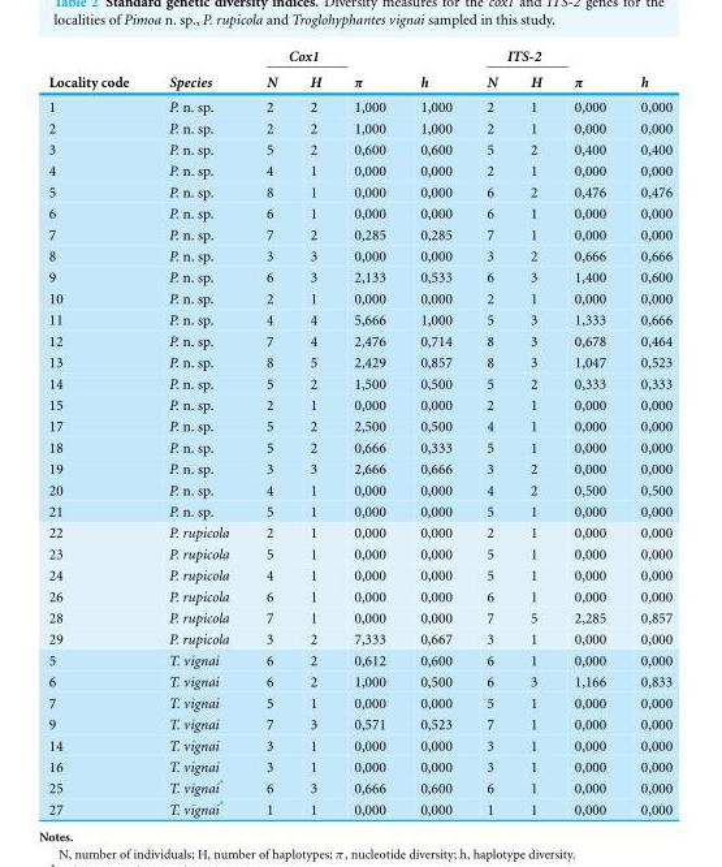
<table><thead><tr><td rowspan="2">Locality code</td><td rowspan="2">Species</td><td colspan="2">Cox1</td><td rowspan="2">π</td><td rowspan="2">h</td><td colspan="2">ITS-2</td><td rowspan="2">π</td><td rowspan="2">h</td></tr><tr><td>N</td><td>H</td><td>N</td><td>H</td></tr></thead><tbody><tr><td>1</td><td>P. n. sp.</td><td>2</td><td>2</td><td>1,000</td><td>1,000</td><td>2</td><td>1</td><td>0,000</td><td>0,000</td></tr><tr><td>2</td><td>P. n. sp.</td><td>2</td><td>2</td><td>1,000</td><td>1,000</td><td>2</td><td>1</td><td>0,000</td><td>0,000</td></tr><tr><td>3</td><td>P. n. sp.</td><td>5</td><td>2</td><td>0,600</td><td>0,600</td><td>5</td><td>2</td><td>0,400</td><td>0,400</td></tr><tr><td>4</td><td>P. n. sp.</td><td>4</td><td>1</td><td>0,000</td><td>0,000</td><td>2</td><td>1</td><td>0,000</td><td>0,000</td></tr><tr><td>5</td><td>P. n. sp.</td><td>8</td><td>1</td><td>0,000</td><td>0,000</td><td>6</td><td>2</td><td>0,476</td><td>0,476</td></tr><tr><td>6</td><td>P. n. sp.</td><td>6</td><td>1</td><td>0,000</td><td>0,000</td><td>6</td><td>1</td><td>0,000</td><td>0,000</td></tr><tr><td>7</td><td>P. n. sp.</td><td>7</td><td>2</td><td>0,285</td><td>0,285</td><td>7</td><td>1</td><td>0,000</td><td>0,000</td></tr><tr><td>8</td><td>P. n. sp.</td><td>3</td><td>3</td><td>0,000</td><td>0,000</td><td>3</td><td>2</td><td>0,666</td><td>0,666</td></tr><tr><td>9</td><td>P. n. sp.</td><td>6</td><td>3</td><td>2,133</td><td>0,533</td><td>6</td><td>3</td><td>1,400</td><td>0,600</td></tr><tr><td>10</td><td>P. n. sp.</td><td>2</td><td>1</td><td>0,000</td><td>0,000</td><td>2</td><td>1</td><td>0,000</td><td>0,000</td></tr><tr><td>11</td><td>P. n. sp.</td><td>4</td><td>4</td><td>5,666</td><td>1,000</td><td>5</td><td>3</td><td>1,333</td><td>0,666</td></tr><tr><td>12</td><td>P. n. sp.</td><td>7</td><td>4</td><td>2,476</td><td>0,714</td><td>8</td><td>3</td><td>0,678</td><td>0,464</td></tr><tr><td>13</td><td>P. n. sp.</td><td>8</td><td>5</td><td>2,429</td><td>0,857</td><td>8</td><td>3</td><td>1,047</td><td>0,523</td></tr><tr><td>14</td><td>P. n. sp.</td><td>5</td><td>2</td><td>1,500</td><td>0,500</td><td>5</td><td>2</td><td>0,333</td><td>0,333</td></tr><tr><td>15</td><td>P. n. sp.</td><td>2</td><td>1</td><td>0,000</td><td>0,000</td><td>2</td><td>1</td><td>0,000</td><td>0,000</td></tr><tr><td>17</td><td>P. n. sp.</td><td>5</td><td>2</td><td>2,500</td><td>0,500</td><td>4</td><td>1</td><td>0,000</td><td>0,000</td></tr><tr><td>18</td><td>P. n. sp.</td><td>5</td><td>2</td><td>0,666</td><td>0,333</td><td>5</td><td>1</td><td>0,000</td><td>0,000</td></tr><tr><td>19</td><td>P. n. sp.</td><td>3</td><td>3</td><td>2,666</td><td>0,666</td><td>3</td><td>2</td><td>0,000</td><td>0,000</td></tr><tr><td>20</td><td>P. n. sp.</td><td>4</td><td>1</td><td>0,000</td><td>0,000</td><td>4</td><td>2</td><td>0,500</td><td>0,500</td></tr><tr><td>21</td><td>P. n. sp.</td><td>5</td><td>1</td><td>0,000</td><td>0,000</td><td>5</td><td>1</td><td>0,000</td><td>0,000</td></tr><tr><td>22</td><td>P. rupicola</td><td>2</td><td>1</td><td>0,000</td><td>0,000</td><td>2</td><td>1</td><td>0,000</td><td>0,000</td></tr><tr><td>23</td><td>P. rupicola</td><td>5</td><td>1</td><td>0,000</td><td>0,000</td><td>5</td><td>1</td><td>0,000</td><td>0,000</td></tr><tr><td>24</td><td>P. rupicola</td><td>4</td><td>1</td><td>0,000</td><td>0,000</td><td>5</td><td>1</td><td>0,000</td><td>0,000</td></tr><tr><td>26</td><td>P. rupicola</td><td>6</td><td>1</td><td>0,000</td><td>0,000</td><td>6</td><td>1</td><td>0,000</td><td>0,000</td></tr><tr><td>28</td><td>P. rupicola</td><td>7</td><td>1</td><td>0,000</td><td>0,000</td><td>7</td><td>5</td><td>2,285</td><td>0,857</td></tr><tr><td>29</td><td>P. rupicola</td><td>3</td><td>2</td><td>7,333</td><td>0,667</td><td>3</td><td>1</td><td>0,000</td><td>0,000</td></tr><tr><td>5</td><td>T. vignai</td><td>6</td><td>2</td><td>0,612</td><td>0,600</td><td>6</td><td>1</td><td>0,000</td><td>0,000</td></tr><tr><td>6</td><td>T. vignai</td><td>6</td><td>2</td><td>1,000</td><td>0,500</td><td>6</td><td>3</td><td>1,166</td><td>0,833</td></tr><tr><td>7</td><td>T. vignai</td><td>5</td><td>1</td><td>0,000</td><td>0,000</td><td>5</td><td>1</td><td>0,000</td><td>0,000</td></tr><tr><td>9</td><td>T. vignai</td><td>7</td><td>3</td><td>0,571</td><td>0,523</td><td>7</td><td>1</td><td>0,000</td><td>0,000</td></tr><tr><td>14</td><td>T. vignai</td><td>3</td><td>1</td><td>0,000</td><td>0,000</td><td>3</td><td>1</td><td>0,000</td><td>0,000</td></tr><tr><td>16</td><td>T. vignai</td><td>3</td><td>1</td><td>0,000</td><td>0,000</td><td>3</td><td>1</td><td>0,000</td><td>0,000</td></tr><tr><td>25</td><td>T. vignai*</td><td>6</td><td>3</td><td>0,666</td><td>0,600</td><td>6</td><td>1</td><td>0,000</td><td>0,000</td></tr><tr><td>27</td><td>T. vignai*</td><td>1</td><td>1</td><td>0,000</td><td>0,000</td><td>1</td><td>1</td><td>0,000</td><td>0,000</td></tr></tbody></table>